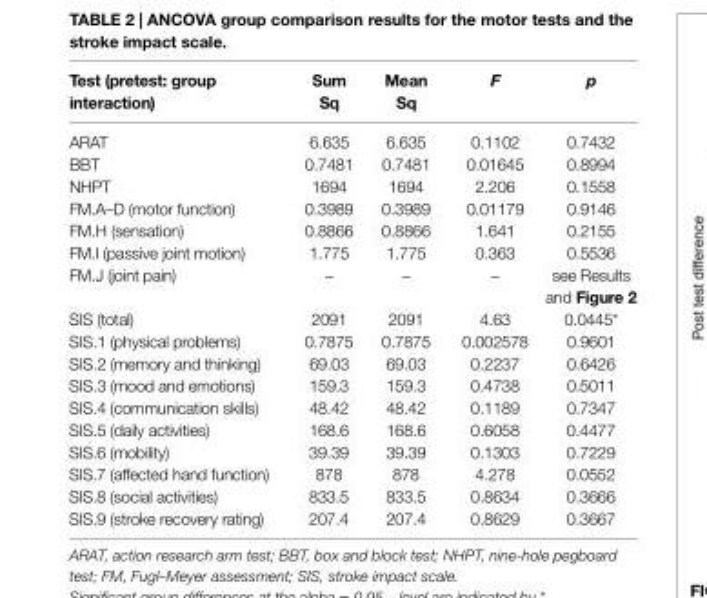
<table><thead><tr><td>Test (pretest: group interaction)</td><td>sum sq</td><td>Mean sq</td><td>F</td><td>p</td></tr></thead><tbody><tr><td>ARAT</td><td>6.635</td><td>6.635</td><td>0.1102</td><td>0.7432</td></tr><tr><td>BBT</td><td>0.7481</td><td>0.7481</td><td>0.01645</td><td>0.8994</td></tr><tr><td>NHPT</td><td>1694</td><td>1694</td><td>2.206</td><td>0.1558</td></tr><tr><td>FM.A–D (motor function)</td><td>0.3989</td><td>0.3989</td><td>0.01179</td><td>0.9146</td></tr><tr><td>FM.H (sensation)</td><td>0.8866</td><td>0.8866</td><td>1.641</td><td>0.2155</td></tr><tr><td>FM.I (passive joint motion)</td><td>1.775</td><td>1.775</td><td>0.363</td><td>0.5536</td></tr><tr><td>FM.J (joint pain)</td><td>–</td><td>–</td><td>–</td><td>see Results and Figure 2</td></tr><tr><td>SIS (total)</td><td>2091</td><td>2091</td><td>4.63</td><td>0.0445*</td></tr><tr><td>SIS.1 (physical problems)</td><td>0.7875</td><td>0.7875</td><td>0.002578</td><td>0.9601</td></tr><tr><td>SIS.2 (memory and thinking)</td><td>69.03</td><td>69.03</td><td>0.2237</td><td>0.6426</td></tr><tr><td>SIS.3 (mood and emotions)</td><td>159.3</td><td>159.3</td><td>0.4738</td><td>0.5011</td></tr><tr><td>SIS.4 (communication skills)</td><td>48.42</td><td>48.42</td><td>0.1189</td><td>0.7347</td></tr><tr><td>SIS.5 (daily activities)</td><td>168.6</td><td>168.6</td><td>0.6058</td><td>0.4477</td></tr><tr><td>SIS.6 (mobility)</td><td>39.39</td><td>39.39</td><td>0.1303</td><td>0.7229</td></tr><tr><td>SIS.7 (affected hand function)</td><td>878</td><td>878</td><td>4.278</td><td>0.0552</td></tr><tr><td>SIS.8 (social activities)</td><td>833.5</td><td>833.5</td><td>0.8634</td><td>0.3666</td></tr><tr><td>SIS.9 (stroke recovery rating)</td><td>207.4</td><td>207.4</td><td>0.8629</td><td>0.3667</td></tr></tbody></table>